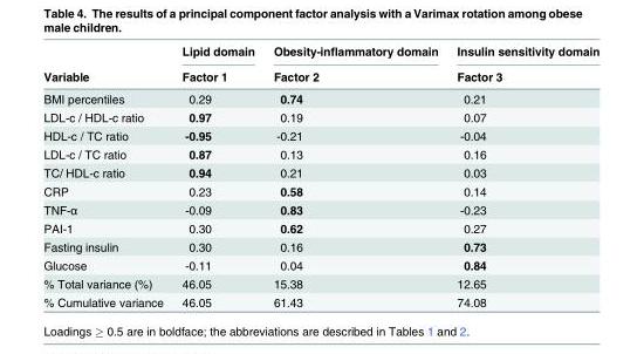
<table><thead><tr><td rowspan="2">Variable</td><td rowspan="2">Lipid domain Factor 1</td><td rowspan="2">Obesity-inflammatory domain Factor 2</td><td rowspan="2">Insulin sensitivity domain Factor 3</td></tr><tr></tr></thead><tbody><tr><td>BMI percentiles</td><td>0.29</td><td>0.74</td><td>0.21</td></tr><tr><td>LDL-c / HDL-c ratio</td><td>0.97</td><td>0.19</td><td>0.07</td></tr><tr><td>HDL-c / TC ratio</td><td>-0.95</td><td>-0.21</td><td>-0.04</td></tr><tr><td>LDL-c / TC ratio</td><td>0.87</td><td>0.13</td><td>0.16</td></tr><tr><td>TC/ HDL-c ratio</td><td>0.94</td><td>0.21</td><td>0.03</td></tr><tr><td>CRP</td><td>0.23</td><td>0.58</td><td>0.14</td></tr><tr><td>TNF-α</td><td>-0.09</td><td>0.83</td><td>-0.23</td></tr><tr><td>PAI-1</td><td>0.30</td><td>0.62</td><td>0.27</td></tr><tr><td>Fasting insulin</td><td>0.30</td><td>0.16</td><td>0.73</td></tr><tr><td>Glucose</td><td>-0.11</td><td>0.04</td><td>0.84</td></tr><tr><td>% Total variance (%)</td><td>46.05</td><td>15.38</td><td>12.65</td></tr><tr><td>% Cumulative variance</td><td>46.05</td><td>61.43</td><td>74.08</td></tr></tbody></table>